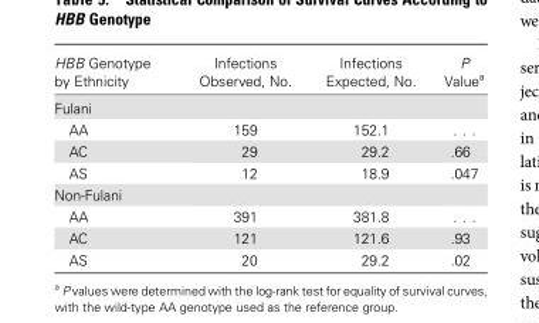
<table><thead><tr><td>HBB Genotype by Ethnicity</td><td>Infections Observed, No.</td><td>Infections Expected, No.</td><td>P Value<sup>a</sup></td></tr></thead><tbody><tr><td colspan="4">Fulani</td></tr><tr><td>AA</td><td>159</td><td>152.1</td><td>. . .</td></tr><tr><td>AC</td><td>29</td><td>29.2</td><td>.66</td></tr><tr><td>AS</td><td>12</td><td>18.9</td><td>.047</td></tr><tr><td colspan="4">Non-Fulani</td></tr><tr><td>AA</td><td>391</td><td>381.8</td><td>. . .</td></tr><tr><td>AC</td><td>121</td><td>121.6</td><td>.93</td></tr><tr><td>AS</td><td>20</td><td>29.2</td><td>.02</td></tr></tbody></table>